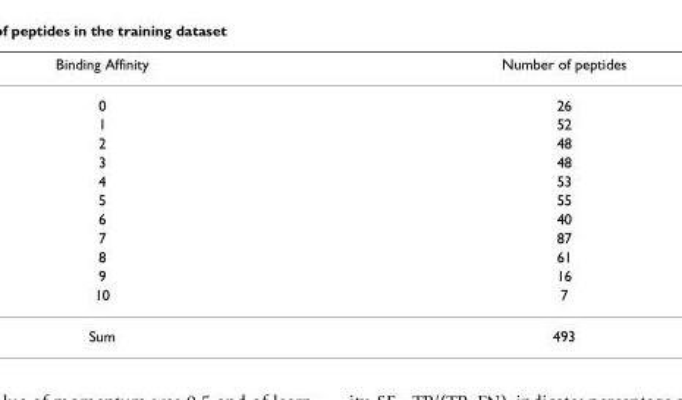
<table><thead><tr><td>Binding Affinity</td><td>Number of peptides</td></tr></thead><tbody><tr><td>0</td><td>26</td></tr><tr><td>1</td><td>52</td></tr><tr><td>2</td><td>48</td></tr><tr><td>3</td><td>48</td></tr><tr><td>4</td><td>53</td></tr><tr><td>5</td><td>55</td></tr><tr><td>6</td><td>40</td></tr><tr><td>7</td><td>87</td></tr><tr><td>8</td><td>61</td></tr><tr><td>9</td><td>16</td></tr><tr><td>10</td><td>7</td></tr><tr><td>Sum</td><td>493</td></tr></tbody></table>